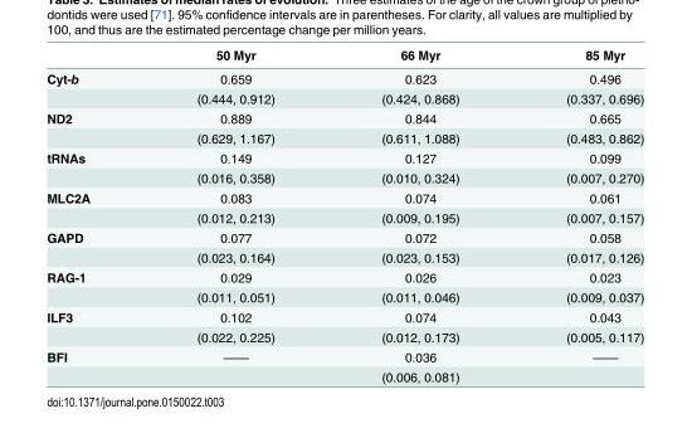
<table><thead><tr><td></td><td>50 Myr</td><td>66 Myr</td><td>85 Myr</td></tr></thead><tbody><tr><td rowspan="2">Cyt-b</td><td>0.659</td><td>0.623</td><td>0.496</td></tr><tr><td>(0.444, 0.912)</td><td>(0.424, 0.868)</td><td>(0.337, 0.696)</td></tr><tr><td rowspan="2">ND2</td><td>0.889</td><td>0.844</td><td>0.665</td></tr><tr><td>(0.629, 1.167)</td><td>(0.611, 1.088)</td><td>(0.483, 0.862)</td></tr><tr><td rowspan="2">tRNAs</td><td>0.149</td><td>0.127</td><td>0.099</td></tr><tr><td>(0.016, 0.358)</td><td>(0.010, 0.324)</td><td>(0.007, 0.270)</td></tr><tr><td rowspan="2">MLC2A</td><td>0.083</td><td>0.074</td><td>0.061</td></tr><tr><td>(0.012, 0.213)</td><td>(0.009, 0.195)</td><td>(0.007, 0.157)</td></tr><tr><td rowspan="2">GAPD</td><td>0.077</td><td>0.072</td><td>0.058</td></tr><tr><td>(0.023, 0.164)</td><td>(0.023, 0.153)</td><td>(0.017, 0.126)</td></tr><tr><td rowspan="2">RAG-1</td><td>0.029</td><td>0.026</td><td>0.023</td></tr><tr><td>(0.011, 0.051)</td><td>(0.011, 0.046)</td><td>(0.009, 0.037)</td></tr><tr><td rowspan="2">ILF3</td><td>0.102</td><td>0.074</td><td>0.043</td></tr><tr><td>(0.022, 0.225)</td><td>(0.012, 0.173)</td><td>(0.005, 0.117)</td></tr><tr><td rowspan="2">BFI</td><td>——</td><td>0.036</td><td>——</td></tr><tr><td></td><td>(0.006, 0.081)</td><td></td></tr></tbody></table>